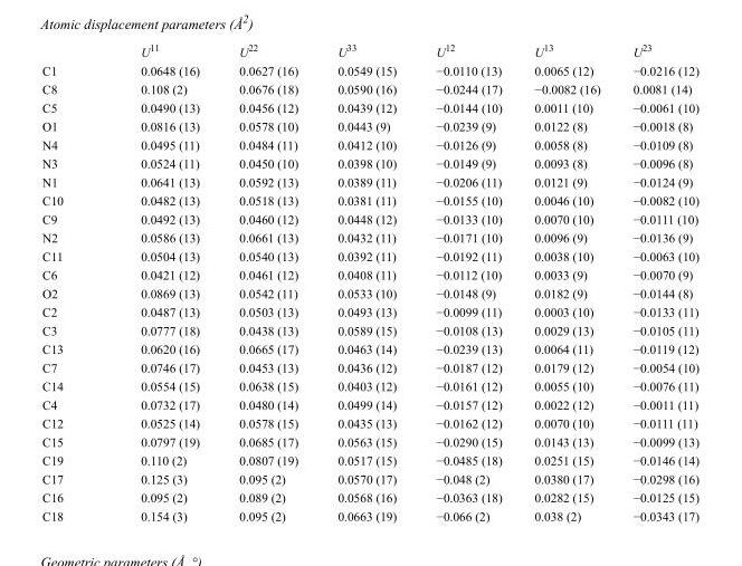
<table><thead><tr><td></td><td>U<sup>11</sup></td><td>U<sup>22</sup></td><td>U<sup>33</sup></td><td>U<sup>12</sup></td><td>U<sup>13</sup></td><td>U<sup>23</sup></td></tr></thead><tbody><tr><td>C1</td><td>0.0648 (16)</td><td>0.0627 (16)</td><td>0.0549 (15)</td><td>−0.0110 (13)</td><td>0.0065 (12)</td><td>−0.0216 (12)</td></tr><tr><td>C8</td><td>0.108 (2)</td><td>0.0676 (18)</td><td>0.0590 (16)</td><td>−0.0244 (17)</td><td>−0.0082 (16)</td><td>0.0081 (14)</td></tr><tr><td>C5</td><td>0.0490 (13)</td><td>0.0456 (12)</td><td>0.0439 (12)</td><td>−0.0144 (10)</td><td>0.0011 (10)</td><td>−0.0061 (10)</td></tr><tr><td>O1</td><td>0.0816 (13)</td><td>0.0578 (10)</td><td>0.0443 (9)</td><td>−0.0239 (9)</td><td>0.0122 (8)</td><td>−0.0018 (8)</td></tr><tr><td>N4</td><td>0.0495 (11)</td><td>0.0484 (11)</td><td>0.0412 (10)</td><td>−0.0126 (9)</td><td>0.0058 (8)</td><td>−0.0109 (8)</td></tr><tr><td>N3</td><td>0.0524 (11)</td><td>0.0450 (10)</td><td>0.0398 (10)</td><td>−0.0149 (9)</td><td>0.0093 (8)</td><td>−0.0096 (8)</td></tr><tr><td>N1</td><td>0.0641 (13)</td><td>0.0592 (13)</td><td>0.0389 (11)</td><td>−0.0206 (11)</td><td>0.0121 (9)</td><td>−0.0124 (9)</td></tr><tr><td>C10</td><td>0.0482 (13)</td><td>0.0518 (13)</td><td>0.0381 (11)</td><td>−0.0155 (10)</td><td>0.0046 (10)</td><td>−0.0082 (10)</td></tr><tr><td>C9</td><td>0.0492 (13)</td><td>0.0460 (12)</td><td>0.0448 (12)</td><td>−0.0133 (10)</td><td>0.0070 (10)</td><td>−0.0111 (10)</td></tr><tr><td>N2</td><td>0.0586 (13)</td><td>0.0661 (13)</td><td>0.0432 (11)</td><td>−0.0171 (10)</td><td>0.0096 (9)</td><td>−0.0136 (9)</td></tr><tr><td>C11</td><td>0.0504 (13)</td><td>0.0540 (13)</td><td>0.0392 (11)</td><td>−0.0192 (11)</td><td>0.0038 (10)</td><td>−0.0063 (10)</td></tr><tr><td>C6</td><td>0.0421 (12)</td><td>0.0461 (12)</td><td>0.0408 (11)</td><td>−0.0112 (10)</td><td>0.0033 (9)</td><td>−0.0070 (9)</td></tr><tr><td>O2</td><td>0.0869 (13)</td><td>0.0542 (11)</td><td>0.0533 (10)</td><td>−0.0148 (9)</td><td>0.0182 (9)</td><td>−0.0144 (8)</td></tr><tr><td>C2</td><td>0.0487 (13)</td><td>0.0503 (13)</td><td>0.0493 (13)</td><td>−0.0099 (11)</td><td>0.0003 (10)</td><td>−0.0133 (11)</td></tr><tr><td>C3</td><td>0.0777 (18)</td><td>0.0438 (13)</td><td>0.0589 (15)</td><td>−0.0108 (13)</td><td>0.0029 (13)</td><td>−0.0105 (11)</td></tr><tr><td>C13</td><td>0.0620 (16)</td><td>0.0665 (17)</td><td>0.0463 (14)</td><td>−0.0239 (13)</td><td>0.0064 (11)</td><td>−0.0119 (12)</td></tr><tr><td>C7</td><td>0.0746 (17)</td><td>0.0453 (13)</td><td>0.0436 (12)</td><td>−0.0187 (12)</td><td>0.0179 (12)</td><td>−0.0054 (10)</td></tr><tr><td>C14</td><td>0.0554 (15)</td><td>0.0638 (15)</td><td>0.0403 (12)</td><td>−0.0161 (12)</td><td>0.0055 (10)</td><td>−0.0076 (11)</td></tr><tr><td>C4</td><td>0.0732 (17)</td><td>0.0480 (14)</td><td>0.0499 (14)</td><td>−0.0157 (12)</td><td>0.0022 (12)</td><td>−0.0011 (11)</td></tr><tr><td>C12</td><td>0.0525 (14)</td><td>0.0578 (15)</td><td>0.0435 (13)</td><td>−0.0162 (12)</td><td>0.0070 (10)</td><td>−0.0111 (11)</td></tr><tr><td>C15</td><td>0.0797 (19)</td><td>0.0685 (17)</td><td>0.0563 (15)</td><td>−0.0290 (15)</td><td>0.0143 (13)</td><td>−0.0099 (13)</td></tr><tr><td>C19</td><td>0.110 (2)</td><td>0.0807 (19)</td><td>0.0517 (15)</td><td>−0.0485 (18)</td><td>0.0251 (15)</td><td>−0.0146 (14)</td></tr><tr><td>C17</td><td>0.125 (3)</td><td>0.095 (2)</td><td>0.0570 (17)</td><td>−0.048 (2)</td><td>0.0380 (17)</td><td>−0.0298 (16)</td></tr><tr><td>C16</td><td>0.095 (2)</td><td>0.089 (2)</td><td>0.0568 (16)</td><td>−0.0363 (18)</td><td>0.0282 (15)</td><td>−0.0125 (15)</td></tr><tr><td>C18</td><td>0.154 (3)</td><td>0.095 (2)</td><td>0.0663 (19)</td><td>−0.066 (2)</td><td>0.038 (2)</td><td>−0.0343 (17)</td></tr></tbody></table>